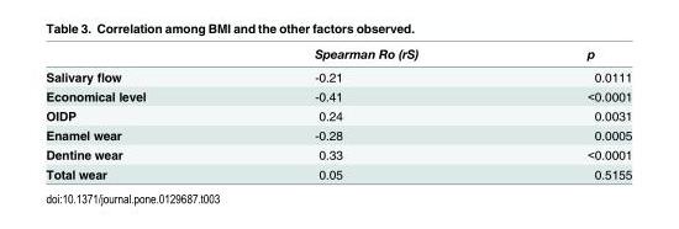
<table><thead><tr><td></td><td>Spearman Ro (rS)</td><td>p</td></tr></thead><tbody><tr><td>Salivary flow</td><td>-0.21</td><td>0.0111</td></tr><tr><td>Economical level</td><td>-0.41</td><td>&lt;0.0001</td></tr><tr><td>OIDP</td><td>0.24</td><td>0.0031</td></tr><tr><td>Enamel wear</td><td>-0.28</td><td>0.0005</td></tr><tr><td>Dentine wear</td><td>0.33</td><td>&lt;0.0001</td></tr><tr><td>Total wear</td><td>0.05</td><td>0.5155</td></tr></tbody></table>